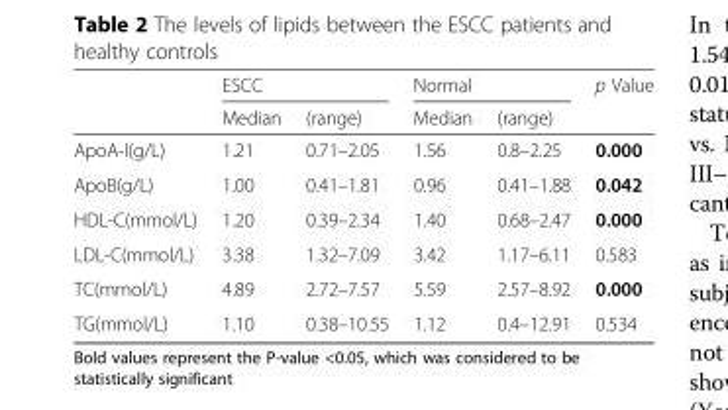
<table><thead><tr><td rowspan="2"></td><td colspan="2">ESCC</td><td colspan="2">Normal</td><td rowspan="2">p Value</td></tr><tr><td>Median</td><td>(range)</td><td>Median</td><td>(range)</td></tr></thead><tbody><tr><td>ApoA-I(g/L)</td><td>1.21</td><td>0.71–2.05</td><td>1.56</td><td>0.8–2.25</td><td>0.000</td></tr><tr><td>ApoB(g/L)</td><td>1.00</td><td>0.41–1.81</td><td>0.96</td><td>0.41–1.88</td><td>0.042</td></tr><tr><td>HDL-C(mmol/L)</td><td>1.20</td><td>0.39–2.34</td><td>1.40</td><td>0.68–2.47</td><td>0.000</td></tr><tr><td>LDL-C(mmol/L)</td><td>3.38</td><td>1.32–7.09</td><td>3.42</td><td>1.17–6.11</td><td>0.583</td></tr><tr><td>TC(mmol/L)</td><td>4.89</td><td>2.72–7.57</td><td>5.59</td><td>2.57–8.92</td><td>0.000</td></tr><tr><td>TG(mmol/L)</td><td>1.10</td><td>0.38–10.55</td><td>1.12</td><td>0.4–12.91</td><td>0.534</td></tr></tbody></table>